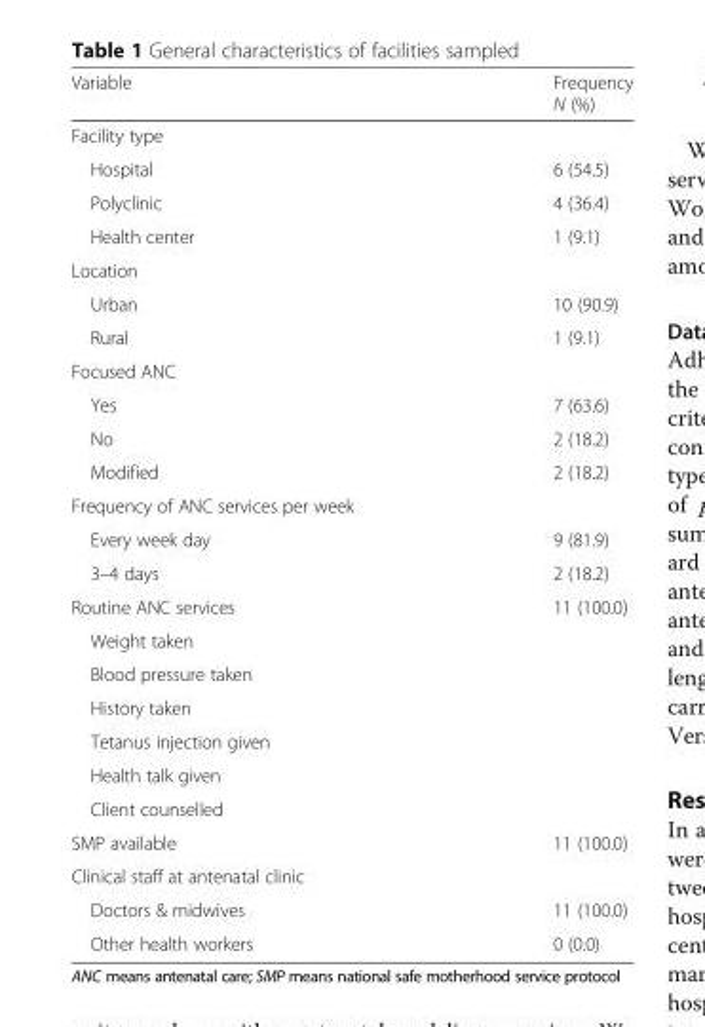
<table><thead><tr><td>Variable</td><td>Frequency N (%)</td></tr></thead><tbody><tr><td colspan="2">Facility type</td></tr><tr><td>Hospital</td><td>6 (54.5)</td></tr><tr><td>Polyclinic</td><td>4 (36.4)</td></tr><tr><td>Health center</td><td>1 (9.1)</td></tr><tr><td colspan="2">Location</td></tr><tr><td>Urban</td><td>10 (90.9)</td></tr><tr><td>Rural</td><td>1 (9.1)</td></tr><tr><td colspan="2">Focused ANC</td></tr><tr><td>Yes</td><td>7 (63.6)</td></tr><tr><td>No</td><td>2 (18.2)</td></tr><tr><td>Modified</td><td>2 (18.2)</td></tr><tr><td colspan="2">Frequency of ANC services per week</td></tr><tr><td>Every week day</td><td>9 (81.9)</td></tr><tr><td>3–4 days</td><td>2 (18.2)</td></tr><tr><td>Routine ANC services</td><td rowspan="7">11 (100.0)</td></tr><tr><td>Weight taken</td></tr><tr><td>Blood pressure taken</td></tr><tr><td>History taken</td></tr><tr><td>Tetanus injection given</td></tr><tr><td>Health talk given</td></tr><tr><td>Client counselled</td></tr><tr><td>SMP available</td><td>11 (100.0)</td></tr><tr><td colspan="2">Clinical staff at antenatal clinic</td></tr><tr><td>Doctors &amp; midwives</td><td>11 (100.0)</td></tr><tr><td>Other health workers</td><td>0 (0.0)</td></tr></tbody></table>